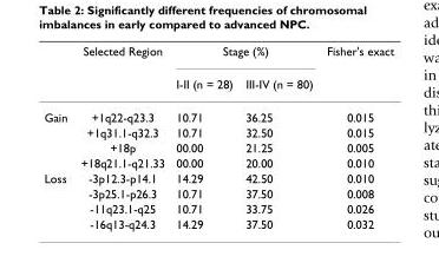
<table><thead><tr><td rowspan="2"></td><td rowspan="2">Selected Region</td><td colspan="2">Stage (%)</td><td rowspan="2">Fisher&#x27;s exact</td></tr><tr><td>I-II (n = 28)</td><td>III-IV (n = 80)</td></tr></thead><tbody><tr><td rowspan="4">Gain</td><td>+1q22-q23.3</td><td>10.71</td><td>36.25</td><td>0.015</td></tr><tr><td>+1q31.1-q32.3</td><td>10.71</td><td>32.50</td><td>0.015</td></tr><tr><td>+18p</td><td>00.00</td><td>21.25</td><td>0.005</td></tr><tr><td>+18q21.1-q21.33</td><td>00.00</td><td>20.00</td><td>0.010</td></tr><tr><td rowspan="4">Loss</td><td>-3p12.3-p14.1</td><td>14.29</td><td>42.50</td><td>0.010</td></tr><tr><td>-3p25.1-p26.3</td><td>10.71</td><td>37.50</td><td>0.008</td></tr><tr><td>-11q23.1-q25</td><td>10.71</td><td>33.75</td><td>0.026</td></tr><tr><td>-16q13-q24.3</td><td>14.29</td><td>37.50</td><td>0.032</td></tr></tbody></table>